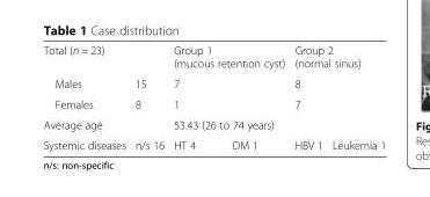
<table><tbody><tr><td colspan="2">Total (n = 23)</td><td colspan="2">Group 1 (mucous retention cyst)</td><td colspan="2">Group 2 (normal sinus)</td></tr><tr><td>Males</td><td>15</td><td colspan="2">7</td><td colspan="2">8</td></tr><tr><td>Females</td><td>8</td><td colspan="2">1</td><td colspan="2">7</td></tr><tr><td colspan="2">Average age</td><td colspan="4">53.43 (26 to 74 years)</td></tr><tr><td>Systemic diseases</td><td>n/s 16</td><td>HT 4</td><td>DM 1</td><td>HBV 1</td><td>Leukemia 1</td></tr></tbody></table>